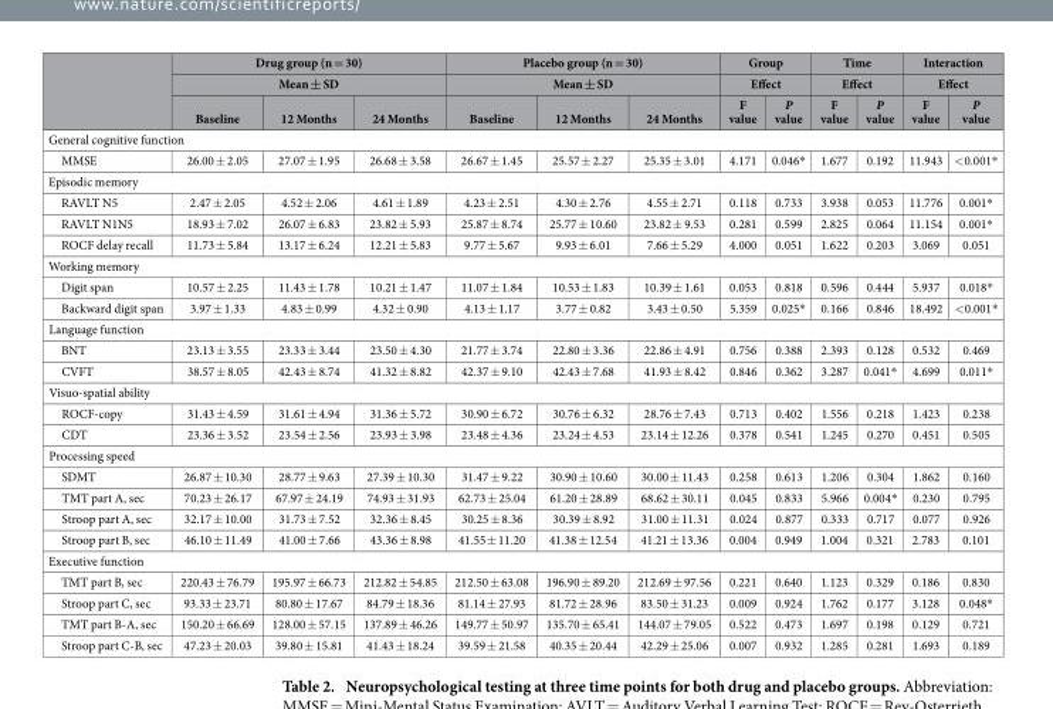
<table><thead><tr><td rowspan="3"></td><td rowspan="2" colspan="3">Drug group (n = 30) Mean ± SD</td><td rowspan="2" colspan="3">Placebo group (n = 30) Mean ± SD</td><td rowspan="2" colspan="2">Group Effect</td><td rowspan="2" colspan="2">Time Effect</td><td rowspan="2" colspan="2">Interaction Effect</td></tr><tr></tr><tr><td>Baseline</td><td>12 Months</td><td>24 Months</td><td>Baseline</td><td>12 Months</td><td>24 Months</td><td>F value</td><td>P value</td><td>F value</td><td>P value</td><td>F value</td><td>P value</td></tr></thead><tbody><tr><td colspan="13">General cognitive function</td></tr><tr><td>MMSE</td><td>26.00 ± 2.05</td><td>27.07 ± 1.95</td><td>26.68 ± 3.58</td><td>26.67 ± 1.45</td><td>25.57 ± 2.27</td><td>25.35 ± 3.01</td><td>4.171</td><td>0.046*</td><td>1.677</td><td>0.192</td><td>11.943</td><td>&lt; 0.001*</td></tr><tr><td colspan="13">Episodic memory</td></tr><tr><td>RAVLT N5</td><td>2.47 ± 2.05</td><td>4.52 ± 2.06</td><td>4.61 ± 1.89</td><td>4.23 ± 2.51</td><td>4.30 ± 2.76</td><td>4.55 ± 2.71</td><td>0.118</td><td>0.733</td><td>3.938</td><td>0.053</td><td>11.776</td><td>0.001*</td></tr><tr><td>RAVLT N1N5</td><td>18.93 ± 7.02</td><td>26.07 ± 6.83</td><td>23.82 ± 5.93</td><td>25.87 ± 8.74</td><td>25.77 ± 10.60</td><td>23.82 ± 9.53</td><td>0.281</td><td>0.599</td><td>2.825</td><td>0.064</td><td>11.154</td><td>0.001*</td></tr><tr><td>ROCF delay recall</td><td>11.73 ± 5.84</td><td>13.17 ± 6.24</td><td>12.21 ± 5.83</td><td>9.77 ± 5.67</td><td>9.93 ± 6.01</td><td>7.66 ± 5.29</td><td>4.000</td><td>0.051</td><td>1.622</td><td>0.203</td><td>3.069</td><td>0.051</td></tr><tr><td colspan="13">Working memory</td></tr><tr><td>Digit span</td><td>10.57 ± 2.25</td><td>11.43 ± 1.78</td><td>10.21 ± 1.47</td><td>11.07 ± 1.84</td><td>10.53 ± 1.83</td><td>10.39 ± 1.61</td><td>0.053</td><td>0.818</td><td>0.596</td><td>0.444</td><td>5.937</td><td>0.018*</td></tr><tr><td>Backward digit span</td><td>3.97 ± 1.33</td><td>4.83 ± 0.99</td><td>4.32 ± 0.90</td><td>4.13 ± 1.17</td><td>3.77 ± 0.82</td><td>3.43 ± 0.50</td><td>5.359</td><td>0.025*</td><td>0.166</td><td>0.846</td><td>18.492</td><td>&lt; 0.001*</td></tr><tr><td colspan="13">Language function</td></tr><tr><td>BNT</td><td>23.13 ± 3.55</td><td>23.33 ± 3.44</td><td>23.50 ± 4.30</td><td>21.77 ± 3.74</td><td>22.80 ± 3.36</td><td>22.86 ± 4.91</td><td>0.756</td><td>0.388</td><td>2.393</td><td>0.128</td><td>0.532</td><td>0.469</td></tr><tr><td>CVFT</td><td>38.57 ± 8.05</td><td>42.43 ± 8.74</td><td>41.32 ± 8.82</td><td>42.37 ± 9.10</td><td>42.43 ± 7.68</td><td>41.93 ± 8.42</td><td>0.846</td><td>0.362</td><td>3.287</td><td>0.041*</td><td>4.699</td><td>0.011*</td></tr><tr><td colspan="13">Visuo-spatial ability</td></tr><tr><td>ROCF-copy</td><td>31.43 ± 4.59</td><td>31.61 ± 4.94</td><td>31.36 ± 5.72</td><td>30.90 ± 6.72</td><td>30.76 ± 6.32</td><td>28.76 ± 7.43</td><td>0.713</td><td>0.402</td><td>1.556</td><td>0.218</td><td>1.423</td><td>0.238</td></tr><tr><td>CDT</td><td>23.36 ± 3.52</td><td>23.54 ± 2.56</td><td>23.93 ± 3.98</td><td>23.48 ± 4.36</td><td>23.24 ± 4.53</td><td>23.14 ± 12.26</td><td>0.378</td><td>0.541</td><td>1.245</td><td>0.270</td><td>0.451</td><td>0.505</td></tr><tr><td colspan="13">Processing speed</td></tr><tr><td>SDMT</td><td>26.87 ± 10.30</td><td>28.77 ± 9.63</td><td>27.39 ± 10.30</td><td>31.47 ± 9.22</td><td>30.90 ± 10.60</td><td>30.00 ± 11.43</td><td>0.258</td><td>0.613</td><td>1.206</td><td>0.304</td><td>1.862</td><td>0.160</td></tr><tr><td>TMT part A, sec</td><td>70.23 ± 26.17</td><td>67.97 ± 24.19</td><td>74.93 ± 31.93</td><td>62.73 ± 25.04</td><td>61.20 ± 28.89</td><td>68.62 ± 30.11</td><td>0.045</td><td>0.833</td><td>5.966</td><td>0.004*</td><td>0.230</td><td>0.795</td></tr><tr><td>Stroop part A, sec</td><td>32.17 ± 10.00</td><td>31.73 ± 7.52</td><td>32.36 ± 8.45</td><td>30.25 ± 8.36</td><td>30.39 ± 8.92</td><td>31.00 ± 11.31</td><td>0.024</td><td>0.877</td><td>0.333</td><td>0.717</td><td>0.077</td><td>0.926</td></tr><tr><td>Stroop part B, sec</td><td>46.10 ± 11.49</td><td>41.00 ± 7.66</td><td>43.36 ± 8.98</td><td>41.55 ± 11.20</td><td>41.38 ± 12.54</td><td>41.21 ± 13.36</td><td>0.004</td><td>0.949</td><td>1.004</td><td>0.321</td><td>2.783</td><td>0.101</td></tr><tr><td colspan="13">Executive function</td></tr><tr><td>TMT part B, sec</td><td>220.43 ± 76.79</td><td>195.97 ± 66.73</td><td>212.82 ± 54.85</td><td>212.50 ± 63.08</td><td>196.90 ± 89.20</td><td>212.69 ± 97.56</td><td>0.221</td><td>0.640</td><td>1.123</td><td>0.329</td><td>0.186</td><td>0.830</td></tr><tr><td>Stroop part C, sec</td><td>93.33 ± 23.71</td><td>80.80 ± 17.67</td><td>84.79 ± 18.36</td><td>81.14 ± 27.93</td><td>81.72 ± 28.96</td><td>83.50 ± 31.23</td><td>0.009</td><td>0.924</td><td>1.762</td><td>0.177</td><td>3.128</td><td>0.048*</td></tr><tr><td>TMT part B-A, sec</td><td>150.20 ± 66.69</td><td>128.00 ± 57.15</td><td>137.89 ± 46.26</td><td>149.77 ± 50.97</td><td>135.70 ± 65.41</td><td>144.07 ± 79.05</td><td>0.522</td><td>0.473</td><td>1.697</td><td>0.198</td><td>0.129</td><td>0.721</td></tr><tr><td>Stroop part C-B, sec</td><td>47.23 ± 20.03</td><td>39.80 ± 15.81</td><td>41.43 ± 18.24</td><td>39.59 ± 21.58</td><td>40.35 ± 20.44</td><td>42.29 ± 25.06</td><td>0.007</td><td>0.932</td><td>1.285</td><td>0.281</td><td>1.693</td><td>0.189</td></tr></tbody></table>